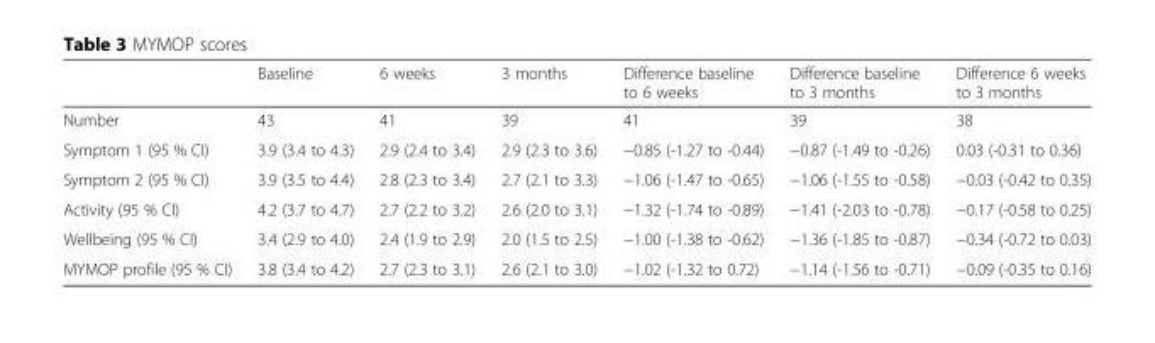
<table><thead><tr><td></td><td>Baseline</td><td>6 weeks</td><td>3 months</td><td>Difference baseline to 6 weeks</td><td>Difference baseline to 3 months</td><td>Difference 6 weeks to 3 months</td></tr></thead><tbody><tr><td>Number</td><td>43</td><td>41</td><td>39</td><td>41</td><td>39</td><td>38</td></tr><tr><td>Symptom 1 (95 % CI)</td><td>3.9 (3.4 to 4.3)</td><td>2.9 (2.4 to 3.4)</td><td>2.9 (2.3 to 3.6)</td><td>−0.85 (-1.27 to -0.44)</td><td>−0.87 (-1.49 to -0.26)</td><td>0.03 (-0.31 to 0.36)</td></tr><tr><td>Symptom 2 (95 % CI)</td><td>3.9 (3.5 to 4.4)</td><td>2.8 (2.3 to 3.4)</td><td>2.7 (2.1 to 3.3)</td><td>−1.06 (-1.47 to -0.65)</td><td>−1.06 (-1.55 to -0.58)</td><td>−0.03 (-0.42 to 0.35)</td></tr><tr><td>Activity (95 % CI)</td><td>4.2 (3.7 to 4.7)</td><td>2.7 (2.2 to 3.2)</td><td>2.6 (2.0 to 3.1)</td><td>−1.32 (-1.74 to -0.89)</td><td>−1.41 (-2.03 to -0.78)</td><td>−0.17 (-0.58 to 0.25)</td></tr><tr><td>Wellbeing (95 % CI)</td><td>3.4 (2.9 to 4.0)</td><td>2.4 (1.9 to 2.9)</td><td>2.0 (1.5 to 2.5)</td><td>−1.00 (-1.38 to -0.62)</td><td>−1.36 (-1.85 to -0.87)</td><td>−0.34 (-0.72 to 0.03)</td></tr><tr><td>MYMOP profile (95 % CI)</td><td>3.8 (3.4 to 4.2)</td><td>2.7 (2.3 to 3.1)</td><td>2.6 (2.1 to 3.0)</td><td>−1.02 (-1.32 to 0.72)</td><td>−1.14 (-1.56 to -0.71)</td><td>−0.09 (-0.35 to 0.16)</td></tr></tbody></table>